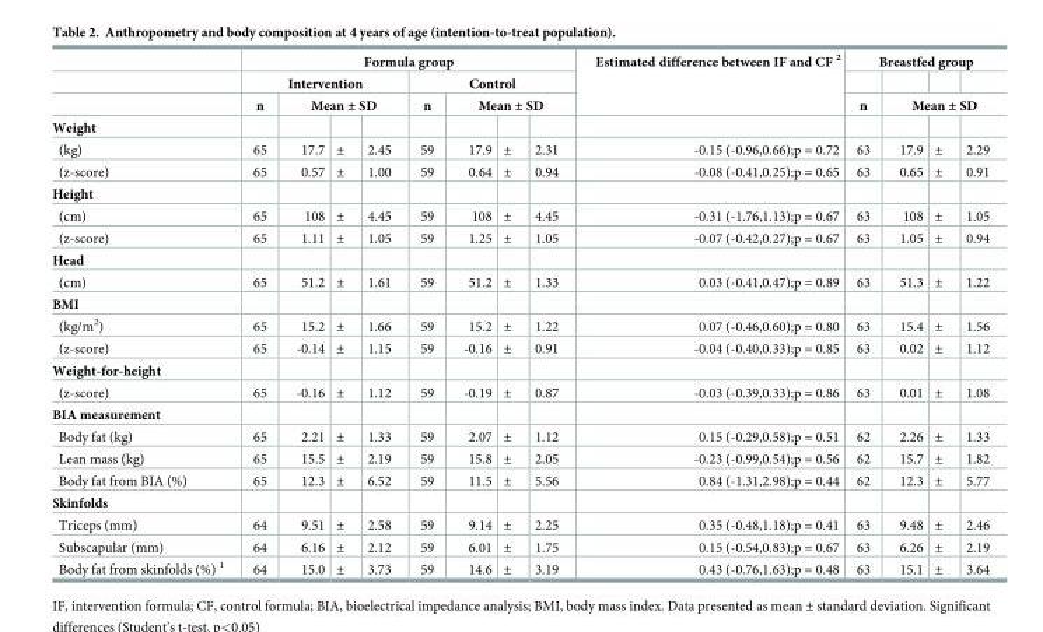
<table><thead><tr><td rowspan="4">Weight</td><td colspan="8">Formula group</td><td rowspan="4">Estimated difference between IF and CF <sup>2</sup></td><td colspan="4">Breastfed group</td></tr><tr><td colspan="4">Intervention</td><td colspan="4">Control</td><td rowspan="3">n</td><td></td><td></td><td></td></tr><tr><td rowspan="2">n</td><td colspan="3">Mean ± SD</td><td rowspan="2">n</td><td colspan="3">Mean ± SD</td><td colspan="3">Mean ± SD</td></tr><tr><td></td><td></td><td></td><td></td><td></td><td></td><td></td><td></td><td></td></tr></thead><tbody><tr><td>(kg)</td><td>65</td><td>17.7</td><td>±</td><td>2.45</td><td>59</td><td>17.9</td><td>±</td><td>2.31</td><td>-0.15 (-0.96,0.66);p = 0.72</td><td>63</td><td>17.9</td><td>±</td><td>2.29</td></tr><tr><td>(z-score)</td><td>65</td><td>0.57</td><td>±</td><td>1.00</td><td>59</td><td>0.64</td><td>±</td><td>0.94</td><td>-0.08 (-0.41,0.25);p = 0.65</td><td>63</td><td>0.65</td><td>±</td><td>0.91</td></tr><tr><td colspan="14">Height</td></tr><tr><td>(cm)</td><td>65</td><td>108</td><td>±</td><td>4.45</td><td>59</td><td>108</td><td>±</td><td>4.45</td><td>-0.31 (-1.76,1.13);p = 0.67</td><td>63</td><td>108</td><td>±</td><td>1.05</td></tr><tr><td>(z-score)</td><td>65</td><td>1.11</td><td>±</td><td>1.05</td><td>59</td><td>1.25</td><td>±</td><td>1.05</td><td>-0.07 (-0.42,0.27);p = 0.67</td><td>63</td><td>1.05</td><td>±</td><td>0.94</td></tr><tr><td colspan="14">Head</td></tr><tr><td>(cm)</td><td>65</td><td>51.2</td><td>±</td><td>1.61</td><td>59</td><td>51.2</td><td>±</td><td>1.33</td><td>0.03 (-0.41,0.47);p = 0.89</td><td>63</td><td>51.3</td><td>±</td><td>1.22</td></tr><tr><td colspan="14">BMI</td></tr><tr><td>(kg/m<sup>2</sup>)</td><td>65</td><td>15.2</td><td>±</td><td>1.66</td><td>59</td><td>15.2</td><td>±</td><td>1.22</td><td>0.07 (-0.46,0.60);p = 0.80</td><td>63</td><td>15.4</td><td>±</td><td>1.56</td></tr><tr><td>(z-score)</td><td>65</td><td>-0.14</td><td>±</td><td>1.15</td><td>59</td><td>-0.16</td><td>±</td><td>0.91</td><td>-0.04 (-0.40,0.33);p = 0.85</td><td>63</td><td>0.02</td><td>±</td><td>1.12</td></tr><tr><td colspan="14">Weight-for-height</td></tr><tr><td>(z-score)</td><td>65</td><td>-0.16</td><td>±</td><td>1.12</td><td>59</td><td>-0.19</td><td>±</td><td>0.87</td><td>-0.03 (-0.39,0.33);p = 0.86</td><td>63</td><td>0.01</td><td>±</td><td>1.08</td></tr><tr><td colspan="14">BIA measurement</td></tr><tr><td>Body fat (kg)</td><td>65</td><td>2.21</td><td>±</td><td>1.33</td><td>59</td><td>2.07</td><td>±</td><td>1.12</td><td>0.15 (-0.29,0.58);p = 0.51</td><td>62</td><td>2.26</td><td>±</td><td>1.33</td></tr><tr><td>Lean mass (kg)</td><td>65</td><td>15.5</td><td>±</td><td>2.19</td><td>59</td><td>15.8</td><td>±</td><td>2.05</td><td>-0.23 (-0.99,0.54);p = 0.56</td><td>62</td><td>15.7</td><td>±</td><td>1.82</td></tr><tr><td>Body fat from BIA (%)</td><td>65</td><td>12.3</td><td>±</td><td>6.52</td><td>59</td><td>11.5</td><td>±</td><td>5.56</td><td>0.84 (-1.31,2.98);p = 0.44</td><td>62</td><td>12.3</td><td>±</td><td>5.77</td></tr><tr><td colspan="14">Skinfolds</td></tr><tr><td>Triceps (mm)</td><td>64</td><td>9.51</td><td>±</td><td>2.58</td><td>59</td><td>9.14</td><td>±</td><td>2.25</td><td>0.35 (-0.48,1.18);p = 0.41</td><td>63</td><td>9.48</td><td>±</td><td>2.46</td></tr><tr><td>Subscapular (mm)</td><td>64</td><td>6.16</td><td>±</td><td>2.12</td><td>59</td><td>6.01</td><td>±</td><td>1.75</td><td>0.15 (-0.54,0.83);p = 0.67</td><td>63</td><td>6.26</td><td>±</td><td>2.19</td></tr><tr><td>Body fat from skinfolds (%) <sup>1</sup></td><td>64</td><td>15.0</td><td>±</td><td>3.73</td><td>59</td><td>14.6</td><td>±</td><td>3.19</td><td>0.43 (-0.76,1.63);p = 0.48</td><td>63</td><td>15.1</td><td>±</td><td>3.64</td></tr></tbody></table>